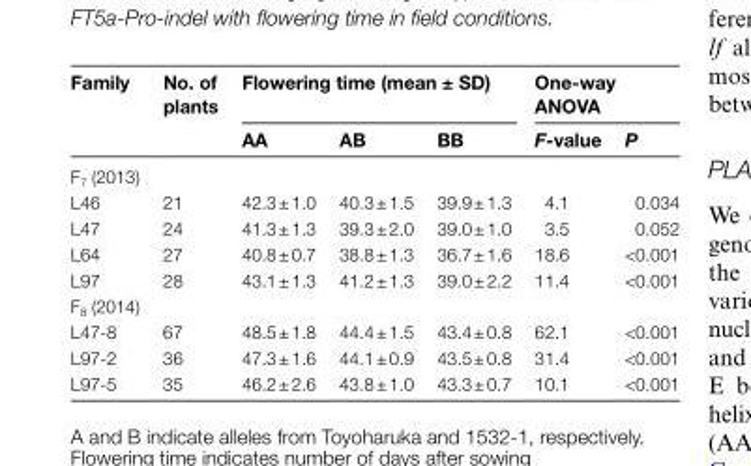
<table><thead><tr><td rowspan="2">Family</td><td rowspan="2">No. of plants</td><td colspan="3">Flowering time (mean ± SD)</td><td colspan="2">One-way ANOVA</td></tr><tr><td>AA</td><td>AB</td><td>BB</td><td>F-value</td><td>P</td></tr></thead><tbody><tr><td colspan="7">F<sub>7</sub> (2013)</td></tr><tr><td>L46</td><td>21</td><td>42.3 ± 1.0</td><td>40.3 ± 1.5</td><td>39.9 ± 1.3</td><td>4.1</td><td>0.034</td></tr><tr><td>L47</td><td>24</td><td>41.3 ± 1.3</td><td>39.3 ± 2.0</td><td>39.0 ± 1.0</td><td>3.5</td><td>0.052</td></tr><tr><td>L64</td><td>27</td><td>40.8 ± 0.7</td><td>38.8 ± 1.3</td><td>36.7 ± 1.6</td><td>18.6</td><td>&lt;0.001</td></tr><tr><td>L97</td><td>28</td><td>43.1 ± 1.3</td><td>41.2 ± 1.3</td><td>39.0 ± 2.2</td><td>11.4</td><td>&lt;0.001</td></tr><tr><td colspan="7">F<sub>8</sub> (2014)</td></tr><tr><td>L47-8</td><td>67</td><td>48.5 ± 1.8</td><td>44.4 ± 1.5</td><td>43.4 ± 0.8</td><td>62.1</td><td>&lt;0.001</td></tr><tr><td>L97-2</td><td>36</td><td>47.3 ± 1.6</td><td>44.1 ± 0.9</td><td>43.5 ± 0.8</td><td>31.4</td><td>&lt;0.001</td></tr><tr><td>L97-5</td><td>35</td><td>46.2 ± 2.6</td><td>43.8 ± 1.0</td><td>43.3 ± 0.7</td><td>10.1</td><td>&lt;0.001</td></tr></tbody></table>